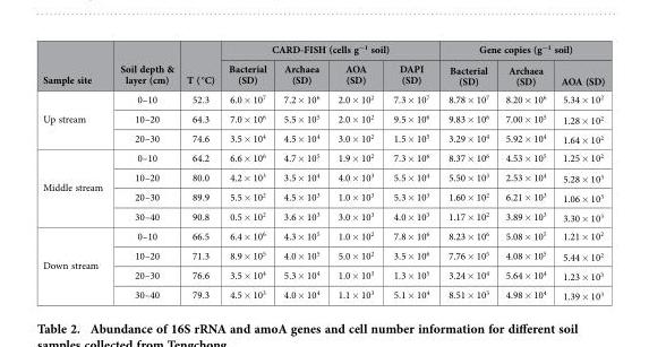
<table><thead><tr><td rowspan="2">Sample site</td><td rowspan="2">Soil depth &amp; layer (cm)</td><td rowspan="2">T ( °C)</td><td colspan="4">CARD-FISH (cells g<sup>−1</sup> soil)</td><td colspan="3">Gene copies (g<sup>−1</sup> soil)</td></tr><tr><td>Bacterial (SD)</td><td>Archaea (SD)</td><td>AOA (SD)</td><td>DAPI (SD)</td><td>Bacterial (SD)</td><td>Archaea (SD)</td><td>AOA (SD)</td></tr></thead><tbody><tr><td rowspan="3">Up stream</td><td>0–10</td><td>52.3</td><td>6.0 × 10<sup>7</sup></td><td>7.2 × 10<sup>6</sup></td><td>2.0 × 10<sup>2</sup></td><td>7.3 × 10<sup>7</sup></td><td>8.78 × 10<sup>7</sup></td><td>8.20 × 10<sup>6</sup></td><td>5.34 × 10<sup>2</sup></td></tr><tr><td>10–20</td><td>64.3</td><td>7.0 × 10<sup>6</sup></td><td>5.5 × 10<sup>5</sup></td><td>2.0 × 10<sup>2</sup></td><td>9.5 × 10<sup>6</sup></td><td>9.83 × 10<sup>6</sup></td><td>7.00 × 10<sup>5</sup></td><td>1.28 × 10<sup>2</sup></td></tr><tr><td>20–30</td><td>74.6</td><td>3.5 × 10<sup>4</sup></td><td>4.5 × 10<sup>4</sup></td><td>3.0 × 10<sup>2</sup></td><td>1.5 × 10<sup>5</sup></td><td>3.29 × 10<sup>4</sup></td><td>5.92 × 10<sup>4</sup></td><td>1.64 × 10<sup>2</sup></td></tr><tr><td rowspan="4">Middle stream</td><td>0–10</td><td>64.2</td><td>6.6 × 10<sup>6</sup></td><td>4.7 × 10<sup>5</sup></td><td>1.9 × 10<sup>2</sup></td><td>7.3 × 10<sup>6</sup></td><td>8.37 × 10<sup>6</sup></td><td>4.53 × 10<sup>5</sup></td><td>1.25 × 10<sup>2</sup></td></tr><tr><td>10–20</td><td>80.0</td><td>4.2 × 10<sup>3</sup></td><td>3.5 × 10<sup>4</sup></td><td>4.0 × 10<sup>3</sup></td><td>5.5 × 10<sup>4</sup></td><td>5.50 × 10<sup>3</sup></td><td>2.53 × 10<sup>4</sup></td><td>5.28 × 10<sup>3</sup></td></tr><tr><td>20–30</td><td>89.9</td><td>5.5 × 10<sup>2</sup></td><td>4.5 × 10<sup>3</sup></td><td>1.0 × 10<sup>3</sup></td><td>5.3 × 10<sup>3</sup></td><td>1.60 × 10<sup>2</sup></td><td>6.21 × 10<sup>3</sup></td><td>1.06 × 10<sup>3</sup></td></tr><tr><td>30–40</td><td>90.8</td><td>0.5 × 10<sup>2</sup></td><td>3.6 × 10<sup>3</sup></td><td>3.0 × 10<sup>3</sup></td><td>4.0 × 10<sup>3</sup></td><td>1.17 × 10<sup>2</sup></td><td>3.89 × 10<sup>3</sup></td><td>3.30 × 10<sup>3</sup></td></tr><tr><td rowspan="4">Down stream</td><td>0–10</td><td>66.5</td><td>6.4 × 10<sup>6</sup></td><td>4.3 × 10<sup>5</sup></td><td>1.0 × 10<sup>2</sup></td><td>7.8 × 10<sup>6</sup></td><td>8.23 × 10<sup>6</sup></td><td>5.08 × 10<sup>5</sup></td><td>1.21 × 10<sup>2</sup></td></tr><tr><td>10–20</td><td>71.3</td><td>8.9 × 10<sup>5</sup></td><td>4.0 × 10<sup>5</sup></td><td>5.0 × 10<sup>2</sup></td><td>3.5 × 10<sup>6</sup></td><td>7.76 × 10<sup>5</sup></td><td>4.08 × 10<sup>5</sup></td><td>5.44 × 10<sup>2</sup></td></tr><tr><td>20–30</td><td>76.6</td><td>3.5 × 10<sup>4</sup></td><td>5.3 × 10<sup>4</sup></td><td>1.0 × 10<sup>3</sup></td><td>1.3 × 10<sup>5</sup></td><td>3.24 × 10<sup>4</sup></td><td>5.64 × 10<sup>4</sup></td><td>1.23 × 10<sup>3</sup></td></tr><tr><td>30–40</td><td>79.3</td><td>4.5 × 10<sup>3</sup></td><td>4.0 × 10<sup>4</sup></td><td>1.1 × 10<sup>3</sup></td><td>5.1 × 10<sup>4</sup></td><td>8.51 × 10<sup>3</sup></td><td>4.98 × 10<sup>4</sup></td><td>1.39 × 10<sup>3</sup></td></tr></tbody></table>